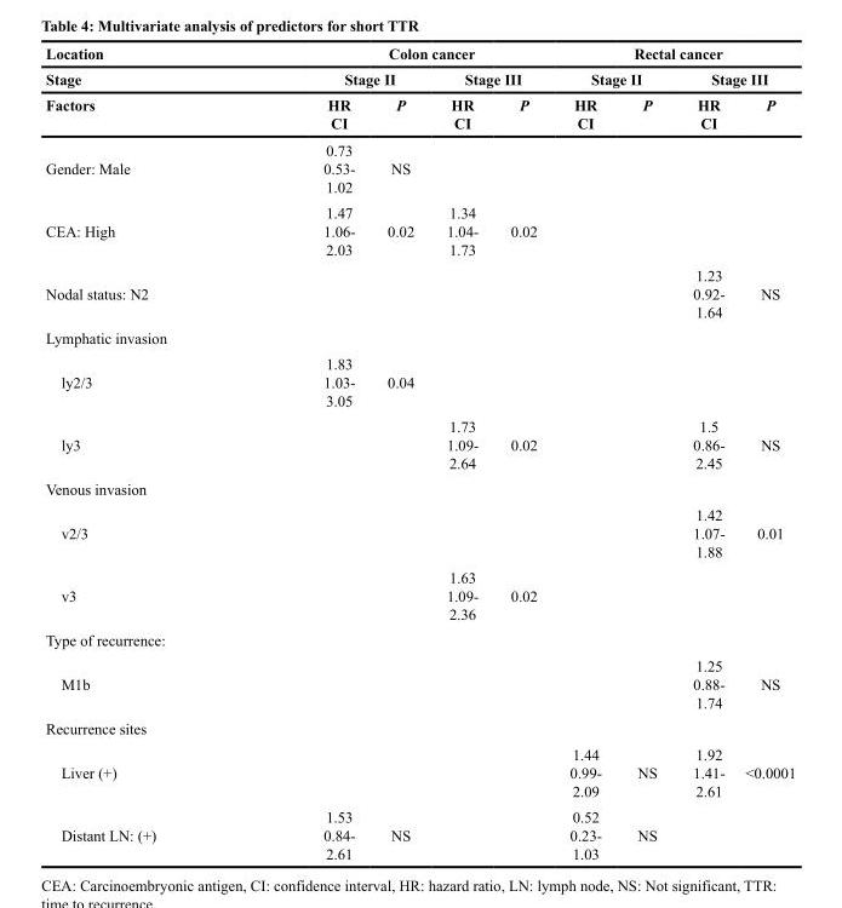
<table><thead><tr><td rowspan="3">Location Stage Factors</td><td colspan="4">Colon cancer</td><td colspan="4">Rectal cancer</td></tr><tr><td colspan="2">Stage II</td><td colspan="2">Stage III</td><td colspan="2">Stage II</td><td colspan="2">Stage III</td></tr><tr><td>HR CI</td><td>P</td><td>HR CI</td><td>P</td><td>HR CI</td><td>P</td><td>HR CI</td><td>P</td></tr></thead><tbody><tr><td>Gender: Male</td><td>0.73 0.53- 1.02</td><td>NS</td><td></td><td></td><td></td><td></td><td></td><td></td></tr><tr><td>CEA: High</td><td>1.47 1.06- 2.03</td><td>0.02</td><td>1.34 1.04- 1.73</td><td>0.02</td><td></td><td></td><td></td><td></td></tr><tr><td>Nodal status: N2</td><td></td><td></td><td></td><td></td><td></td><td></td><td>1.23 0.92- 1.64</td><td>NS</td></tr><tr><td colspan="9">Lymphatic invasion</td></tr><tr><td>ly2/3</td><td>1.83 1.03- 3.05</td><td>0.04</td><td></td><td></td><td></td><td></td><td></td><td></td></tr><tr><td>ly3</td><td></td><td></td><td>1.73 1.09- 2.64</td><td>0.02</td><td></td><td></td><td>1.5 0.86- 2.45</td><td>NS</td></tr><tr><td colspan="9">Venous invasion</td></tr><tr><td>v2/3</td><td></td><td></td><td></td><td></td><td></td><td></td><td>1.42 1.07- 1.88</td><td>0.01</td></tr><tr><td>v3</td><td></td><td></td><td>1.63 1.09- 2.36</td><td>0.02</td><td></td><td></td><td></td><td></td></tr><tr><td colspan="9">Type of recurrence:</td></tr><tr><td>M1b</td><td></td><td></td><td></td><td></td><td></td><td></td><td>1.25 0.88- 1.74</td><td>NS</td></tr><tr><td colspan="9">Recurrence sites</td></tr><tr><td>Liver (+)</td><td></td><td></td><td></td><td></td><td>1.44 0.99- 2.09</td><td>NS</td><td>1.92 1.41- 2.61</td><td>&lt;0.0001</td></tr><tr><td>Distant LN: (+)</td><td>1.53 0.84- 2.61</td><td>NS</td><td></td><td></td><td>0.52 0.23- 1.03</td><td>NS</td><td></td><td></td></tr></tbody></table>